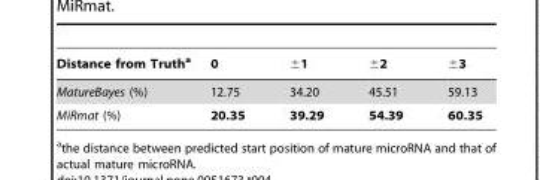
<table><thead><tr><td>Distance from Truth<sup>a</sup></td><td>0</td><td>±1</td><td>±2</td><td>±3</td></tr></thead><tbody><tr><td>MatureBayes (%)</td><td>12.75</td><td>34.20</td><td>45.51</td><td>59.13</td></tr><tr><td>MiRmat (%)</td><td>20.35</td><td>39.29</td><td>54.39</td><td>60.35</td></tr></tbody></table>